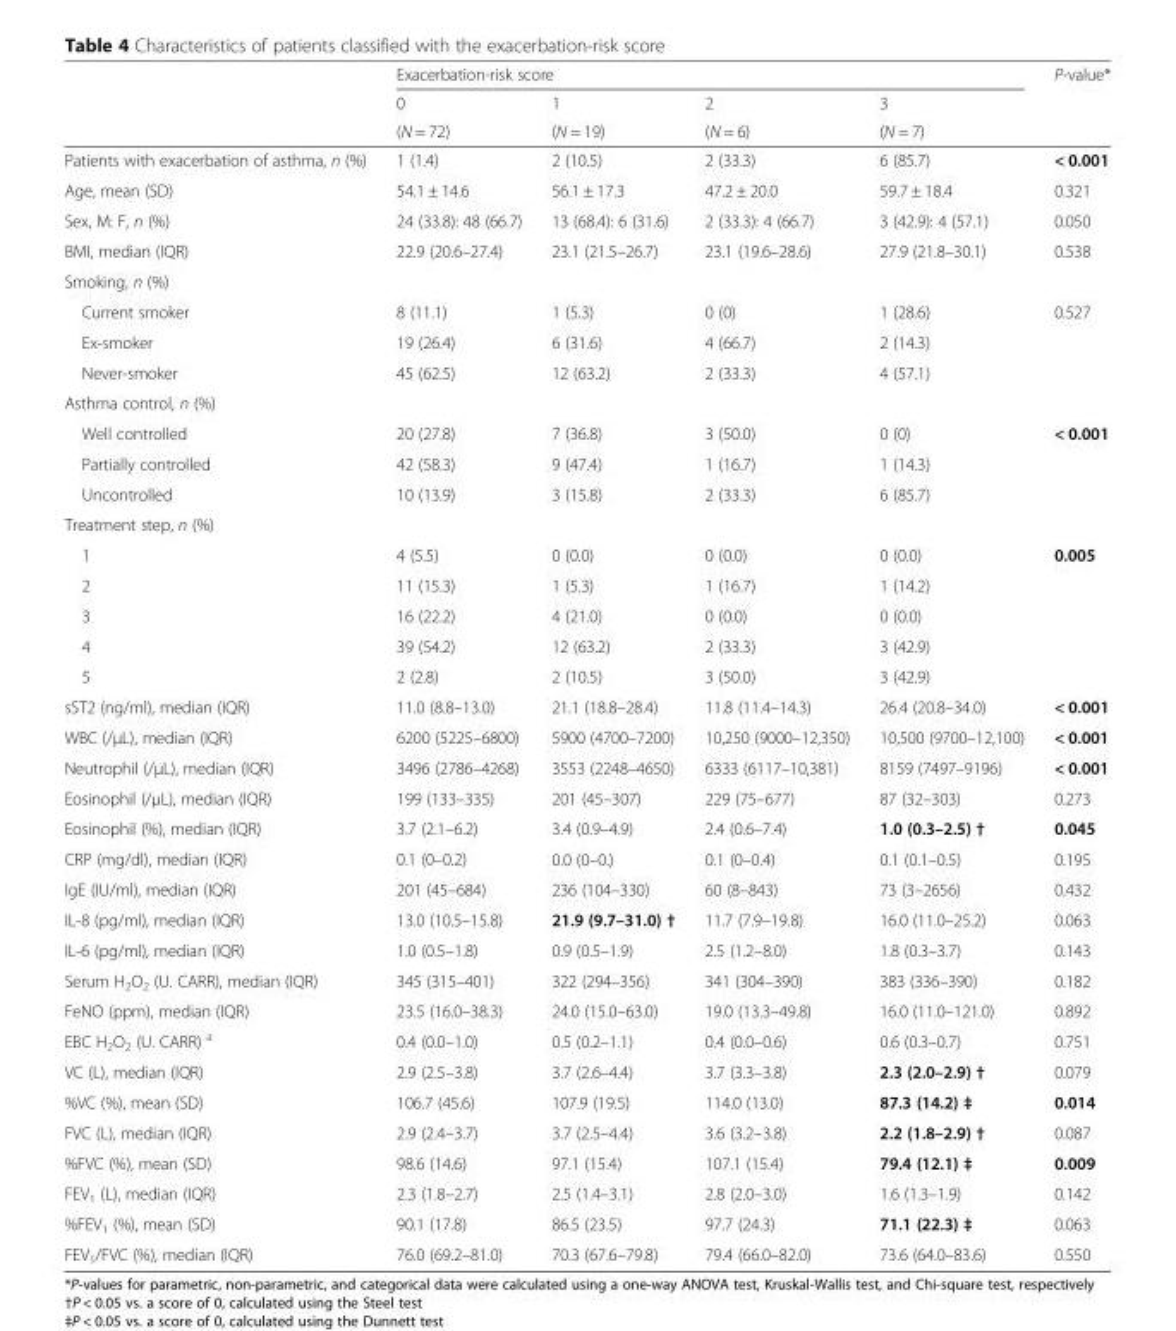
<table><thead><tr><td rowspan="3"></td><td colspan="4">Exacerbation-risk score</td><td rowspan="3">P-value*</td></tr><tr><td rowspan="2">0 (N = 72)</td><td rowspan="2">1 (N = 19)</td><td rowspan="2">2 (N = 6)</td><td rowspan="2">3 (N = 7)</td></tr><tr></tr></thead><tbody><tr><td>Patients with exacerbation of asthma, n (%)</td><td>1 (1.4)</td><td>2 (10.5)</td><td>2 (33.3)</td><td>6 (85.7)</td><td>&lt; 0.001</td></tr><tr><td>Age, mean (SD)</td><td>54.1 ± 14.6</td><td>56.1 ± 17.3</td><td>47.2 ± 20.0</td><td>59.7 ± 18.4</td><td>0.321</td></tr><tr><td>Sex, M: F, n (%)</td><td>24 (33.8): 48 (66.7)</td><td>13 (68.4): 6 (31.6)</td><td>2 (33.3): 4 (66.7)</td><td>3 (42.9): 4 (57.1)</td><td>0.050</td></tr><tr><td>BMI, median (IQR)</td><td>22.9 (20.6–27.4)</td><td>23.1 (21.5–26.7)</td><td>23.1 (19.6–28.6)</td><td>27.9 (21.8–30.1)</td><td>0.538</td></tr><tr><td colspan="6">Smoking, n (%)</td></tr><tr><td>Current smoker</td><td>8 (11.1)</td><td>1 (5.3)</td><td>0 (0)</td><td>1 (28.6)</td><td>0.527</td></tr><tr><td>Ex-smoker</td><td>19 (26.4)</td><td>6 (31.6)</td><td>4 (66.7)</td><td>2 (14.3)</td><td></td></tr><tr><td>Never-smoker</td><td>45 (62.5)</td><td>12 (63.2)</td><td>2 (33.3)</td><td>4 (57.1)</td><td></td></tr><tr><td colspan="6">Asthma control, n (%)</td></tr><tr><td>Well controlled</td><td>20 (27.8)</td><td>7 (36.8)</td><td>3 (50.0)</td><td>0 (0)</td><td>&lt; 0.001</td></tr><tr><td>Partially controlled</td><td>42 (58.3)</td><td>9 (47.4)</td><td>1 (16.7)</td><td>1 (14.3)</td><td></td></tr><tr><td>Uncontrolled</td><td>10 (13.9)</td><td>3 (15.8)</td><td>2 (33.3)</td><td>6 (85.7)</td><td></td></tr><tr><td colspan="6">Treatment step, n (%)</td></tr><tr><td>1</td><td>4 (5.5)</td><td>0 (0.0)</td><td>0 (0.0)</td><td>0 (0.0)</td><td>0.005</td></tr><tr><td>2</td><td>11 (15.3)</td><td>1 (5.3)</td><td>1 (16.7)</td><td>1 (14.2)</td><td></td></tr><tr><td>3</td><td>16 (22.2)</td><td>4 (21.0)</td><td>0 (0.0)</td><td>0 (0.0)</td><td></td></tr><tr><td>4</td><td>39 (54.2)</td><td>12 (63.2)</td><td>2 (33.3)</td><td>3 (42.9)</td><td></td></tr><tr><td>5</td><td>2 (2.8)</td><td>2 (10.5)</td><td>3 (50.0)</td><td>3 (42.9)</td><td></td></tr><tr><td>sST2 (ng/ml), median (IQR)</td><td>11.0 (8.8–13.0)</td><td>21.1 (18.8–28.4)</td><td>11.8 (11.4–14.3)</td><td>26.4 (20.8–34.0)</td><td>&lt; 0.001</td></tr><tr><td>WBC (/μL), median (IQR)</td><td>6200 (5225–6800)</td><td>5900 (4700–7200)</td><td>10,250 (9000–12,350)</td><td>10,500 (9700–12,100)</td><td>&lt; 0.001</td></tr><tr><td>Neutrophil (/μL), median (IQR)</td><td>3496 (2786–4268)</td><td>3553 (2248–4650)</td><td>6333 (6117–10,381)</td><td>8159 (7497–9196)</td><td>&lt; 0.001</td></tr><tr><td>Eosinophil (/μL), median (IQR)</td><td>199 (133–335)</td><td>201 (45–307)</td><td>229 (75–677)</td><td>87 (32–303)</td><td>0.273</td></tr><tr><td>Eosinophil (%), median (IQR)</td><td>3.7 (2.1–6.2)</td><td>3.4 (0.9–4.9)</td><td>2.4 (0.6–7.4)</td><td>1.0 (0.3–2.5) †</td><td>0.045</td></tr><tr><td>CRP (mg/dl), median (IQR)</td><td>0.1 (0–0.2)</td><td>0.0 (0–0.)</td><td>0.1 (0–0.4)</td><td>0.1 (0.1–0.5)</td><td>0.195</td></tr><tr><td>IgE (IU/ml), median (IQR)</td><td>201 (45–684)</td><td>236 (104–330)</td><td>60 (8–843)</td><td>73 (3–2656)</td><td>0.432</td></tr><tr><td>IL-8 (pg/ml), median (IQR)</td><td>13.0 (10.5–15.8)</td><td>21.9 (9.7–31.0) †</td><td>11.7 (7.9–19.8)</td><td>16.0 (11.0–25.2)</td><td>0.063</td></tr><tr><td>IL-6 (pg/ml), median (IQR)</td><td>1.0 (0.5–1.8)</td><td>0.9 (0.5–1.9)</td><td>2.5 (1.2–8.0)</td><td>1.8 (0.3–3.7)</td><td>0.143</td></tr><tr><td>Serum H<sub>2</sub>O<sub>2</sub> (U. CARR), median (IQR)</td><td>345 (315–401)</td><td>322 (294–356)</td><td>341 (304–390)</td><td>383 (336–390)</td><td>0.182</td></tr><tr><td>FeNO (ppm), median (IQR)</td><td>23.5 (16.0–38.3)</td><td>24.0 (15.0–63.0)</td><td>19.0 (13.3–49.8)</td><td>16.0 (11.0–121.0)</td><td>0.892</td></tr><tr><td>EBC H<sub>2</sub>O<sub>2</sub> (U. CARR) <sup>a</sup></td><td>0.4 (0.0–1.0)</td><td>0.5 (0.2–1.1)</td><td>0.4 (0.0–0.6)</td><td>0.6 (0.3–0.7)</td><td>0.751</td></tr><tr><td>VC (L), median (IQR)</td><td>2.9 (2.5–3.8)</td><td>3.7 (2.6–4.4)</td><td>3.7 (3.3–3.8)</td><td>2.3 (2.0–2.9) †</td><td>0.079</td></tr><tr><td>%VC (%), mean (SD)</td><td>106.7 (45.6)</td><td>107.9 (19.5)</td><td>114.0 (13.0)</td><td>87.3 (14.2) ‡</td><td>0.014</td></tr><tr><td>FVC (L), median (IQR)</td><td>2.9 (2.4–3.7)</td><td>3.7 (2.5–4.4)</td><td>3.6 (3.2–3.8)</td><td>2.2 (1.8–2.9) †</td><td>0.087</td></tr><tr><td>%FVC (%), mean (SD)</td><td>98.6 (14.6)</td><td>97.1 (15.4)</td><td>107.1 (15.4)</td><td>79.4 (12.1) ‡</td><td>0.009</td></tr><tr><td>FEV<sub>1</sub> (L), median (IQR)</td><td>2.3 (1.8–2.7)</td><td>2.5 (1.4–3.1)</td><td>2.8 (2.0–3.0)</td><td>1.6 (1.3–1.9)</td><td>0.142</td></tr><tr><td>%FEV<sub>1</sub> (%), mean (SD)</td><td>90.1 (17.8)</td><td>86.5 (23.5)</td><td>97.7 (24.3)</td><td>71.1 (22.3) ‡</td><td>0.063</td></tr><tr><td>FEV<sub>1</sub>/FVC (%), median (IQR)</td><td>76.0 (69.2–81.0)</td><td>70.3 (67.6–79.8)</td><td>79.4 (66.0–82.0)</td><td>73.6 (64.0–83.6)</td><td>0.550</td></tr></tbody></table>